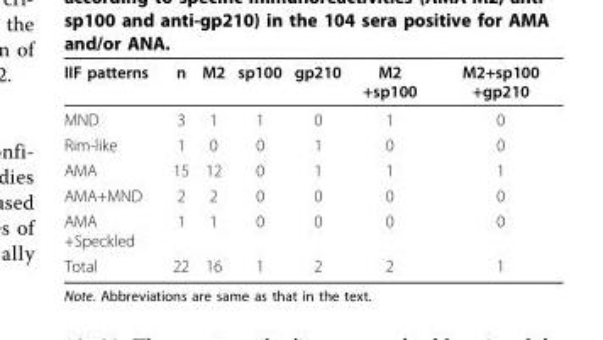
<table><thead><tr><td>IIF patterns</td><td>n</td><td>M2</td><td>sp100</td><td>gp210</td><td>M2 +sp100</td><td>M2+sp100 +gp210</td></tr></thead><tbody><tr><td>MND</td><td>3</td><td>1</td><td>1</td><td>0</td><td>1</td><td>0</td></tr><tr><td>Rim-like</td><td>1</td><td>0</td><td>0</td><td>1</td><td>0</td><td>0</td></tr><tr><td>AMA</td><td>15</td><td>12</td><td>0</td><td>1</td><td>1</td><td>1</td></tr><tr><td>AMA+MND</td><td>2</td><td>2</td><td>0</td><td>0</td><td>0</td><td>0</td></tr><tr><td>AMA +Speckled</td><td>1</td><td>1</td><td>0</td><td>0</td><td>0</td><td>0</td></tr><tr><td>Total</td><td>22</td><td>16</td><td>1</td><td>2</td><td>2</td><td>1</td></tr></tbody></table>